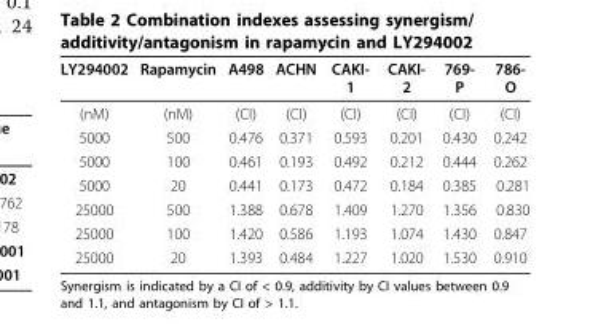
<table><thead><tr><td>LY294002</td><td>Rapamycin</td><td>A498</td><td>ACHN</td><td>CAKI- 1</td><td>CAKI- 2</td><td>769- P</td><td>786- O</td></tr></thead><tbody><tr><td>(nM)</td><td>(nM)</td><td>(CI)</td><td>(CI)</td><td>(CI)</td><td>(CI)</td><td>(CI)</td><td>(CI)</td></tr><tr><td>5000</td><td>500</td><td>0.476</td><td>0.371</td><td>0.593</td><td>0.201</td><td>0.430</td><td>0.242</td></tr><tr><td>5000</td><td>100</td><td>0.461</td><td>0.193</td><td>0.492</td><td>0.212</td><td>0.444</td><td>0.262</td></tr><tr><td>5000</td><td>20</td><td>0.441</td><td>0.173</td><td>0.472</td><td>0.184</td><td>0.385</td><td>0.281</td></tr><tr><td>25000</td><td>500</td><td>1.388</td><td>0.678</td><td>1.409</td><td>1.270</td><td>1.356</td><td>0.830</td></tr><tr><td>25000</td><td>100</td><td>1.420</td><td>0.586</td><td>1.193</td><td>1.074</td><td>1.430</td><td>0.847</td></tr><tr><td>25000</td><td>20</td><td>1.393</td><td>0.484</td><td>1.227</td><td>1.020</td><td>1.530</td><td>0.910</td></tr></tbody></table>